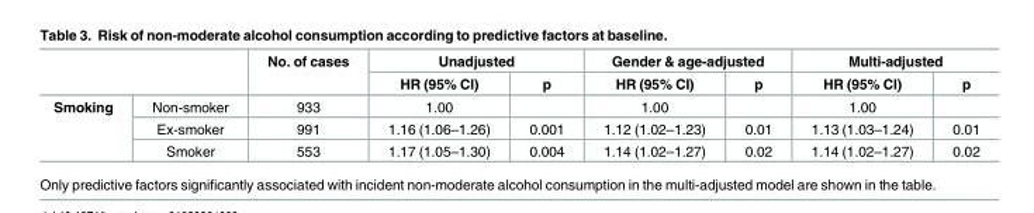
<table><thead><tr><td rowspan="2"></td><td rowspan="2"></td><td rowspan="2">No. of cases</td><td colspan="2">Unadjusted</td><td colspan="2">Gender &amp; age-adjusted</td><td colspan="2">Multi-adjusted</td></tr><tr><td>HR (95% CI)</td><td>p</td><td>HR (95% CI)</td><td>p</td><td>HR (95% CI)</td><td>p</td></tr></thead><tbody><tr><td rowspan="3">Smoking</td><td>Non-smoker</td><td>933</td><td>1.00</td><td></td><td>1.00</td><td></td><td>1.00</td><td></td></tr><tr><td>Ex-smoker</td><td>991</td><td>1.16 (1.06–1.26)</td><td>0.001</td><td>1.12 (1.02–1.23)</td><td>0.01</td><td>1.13 (1.03–1.24)</td><td>0.01</td></tr><tr><td>Smoker</td><td>553</td><td>1.17 (1.05–1.30)</td><td>0.004</td><td>1.14 (1.02–1.27)</td><td>0.02</td><td>1.14 (1.02–1.27)</td><td>0.02</td></tr></tbody></table>